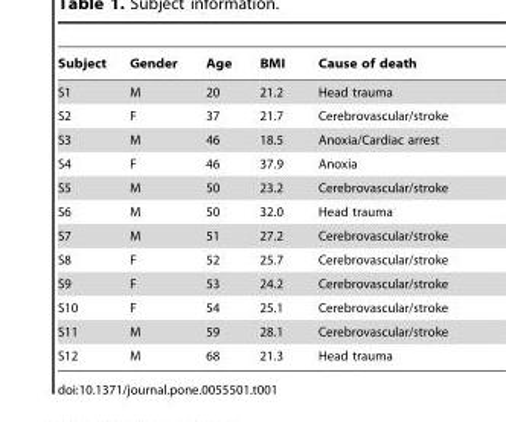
<table><thead><tr><td>Subject</td><td>Gender</td><td>Age</td><td>BMI</td><td>Cause of death</td></tr></thead><tbody><tr><td>S1</td><td>M</td><td>20</td><td>21.2</td><td>Head trauma</td></tr><tr><td>S2</td><td>F</td><td>37</td><td>21.7</td><td>Cerebrovascular/stroke</td></tr><tr><td>S3</td><td>M</td><td>46</td><td>18.5</td><td>Anoxia/Cardiac arrest</td></tr><tr><td>S4</td><td>F</td><td>46</td><td>37.9</td><td>Anoxia</td></tr><tr><td>S5</td><td>M</td><td>50</td><td>23.2</td><td>Cerebrovascular/stroke</td></tr><tr><td>S6</td><td>M</td><td>50</td><td>32.0</td><td>Head trauma</td></tr><tr><td>S7</td><td>M</td><td>51</td><td>27.2</td><td>Cerebrovascular/stroke</td></tr><tr><td>S8</td><td>F</td><td>52</td><td>25.7</td><td>Cerebrovascular/stroke</td></tr><tr><td>S9</td><td>F</td><td>53</td><td>24.2</td><td>Cerebrovascular/stroke</td></tr><tr><td>S10</td><td>F</td><td>54</td><td>25.1</td><td>Cerebrovascular/stroke</td></tr><tr><td>S11</td><td>M</td><td>59</td><td>28.1</td><td>Cerebrovascular/stroke</td></tr><tr><td>S12</td><td>M</td><td>68</td><td>21.3</td><td>Head trauma</td></tr></tbody></table>